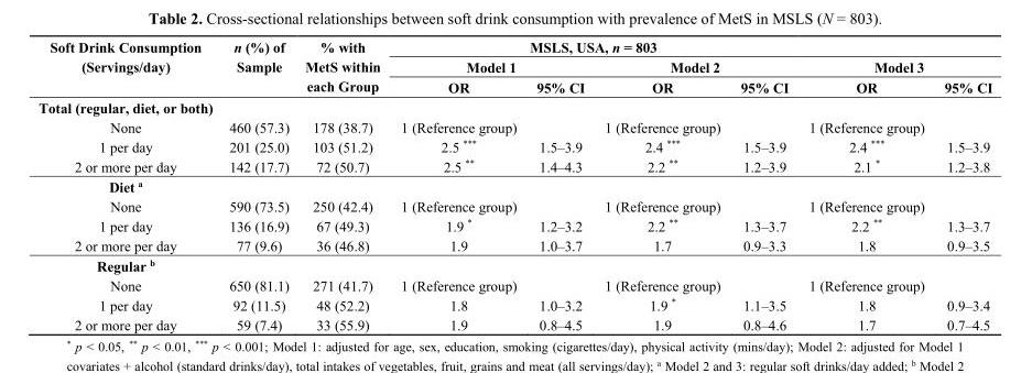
<table><thead><tr><td rowspan="3">Soft Drink Consumption (Servings/day)</td><td rowspan="3">n (%) of Sample</td><td rowspan="3">% with MetS within each Group</td><td colspan="4">MSLS, USA, n = 803</td><td></td><td></td></tr><tr><td colspan="2">Model 1</td><td colspan="2">Model 2</td><td colspan="2">Model 3</td></tr><tr><td>OR</td><td>95% CI</td><td>OR</td><td>95% CI</td><td>OR</td><td>95% CI</td></tr></thead><tbody><tr><td colspan="9">Total (regular, diet, or both)</td></tr><tr><td>None</td><td>460 (57.3)</td><td>178 (38.7)</td><td>1 (Reference group)</td><td></td><td>1 (Reference group)</td><td></td><td>1 (Reference group)</td><td></td></tr><tr><td>1 per day</td><td>201 (25.0)</td><td>103 (51.2)</td><td>2.5 ***</td><td>1.5–3.9</td><td>2.4 ***</td><td>1.5–3.9</td><td>2.4 ***</td><td>1.5–3.9</td></tr><tr><td>2 or more per day</td><td>142 (17.7)</td><td>72 (50.7)</td><td>2.5 **</td><td>1.4–4.3</td><td>2.2 **</td><td>1.2–3.9</td><td>2.1 *</td><td>1.2–3.8</td></tr><tr><td colspan="9">Diet <sup>a</sup></td></tr><tr><td>None</td><td>590 (73.5)</td><td>250 (42.4)</td><td>1 (Reference group)</td><td></td><td>1 (Reference group)</td><td></td><td>1 (Reference group)</td><td></td></tr><tr><td>1 per day</td><td>136 (16.9)</td><td>67 (49.3)</td><td>1.9 *</td><td>1.2–3.2</td><td>2.2 **</td><td>1.3–3.7</td><td>2.2 **</td><td>1.3–3.7</td></tr><tr><td>2 or more per day</td><td>77 (9.6)</td><td>36 (46.8)</td><td>1.9</td><td>1.0–3.7</td><td>1.7</td><td>0.9–3.3</td><td>1.8</td><td>0.9–3.5</td></tr><tr><td colspan="9">Regular <sup>b</sup></td></tr><tr><td>None</td><td>650 (81.1)</td><td>271 (41.7)</td><td>1 (Reference group)</td><td></td><td>1 (Reference group)</td><td></td><td>1 (Reference group)</td><td></td></tr><tr><td>1 per day</td><td>92 (11.5)</td><td>48 (52.2)</td><td>1.8</td><td>1.0–3.2</td><td>1.9 *</td><td>1.1–3.5</td><td>1.8</td><td>0.9–3.4</td></tr><tr><td>2 or more per day</td><td>59 (7.4)</td><td>33 (55.9)</td><td>1.9</td><td>0.8–4.5</td><td>1.9</td><td>0.8–4.6</td><td>1.7</td><td>0.7–4.5</td></tr></tbody></table>